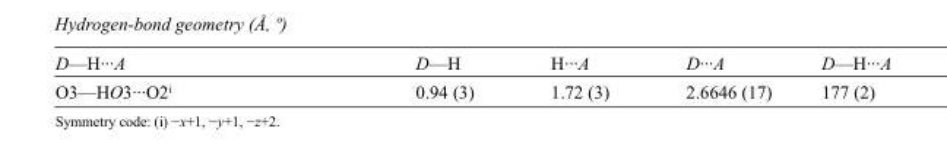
<table><tbody><tr><td>D—H···A</td><td>D—H</td><td>H···A</td><td>D···A</td><td>D—H···A</td></tr><tr><td>O3—HO3···O2<sup>i</sup></td><td>0.94 (3)</td><td>1.72 (3)</td><td>2.6646 (17)</td><td>177 (2)</td></tr></tbody></table>